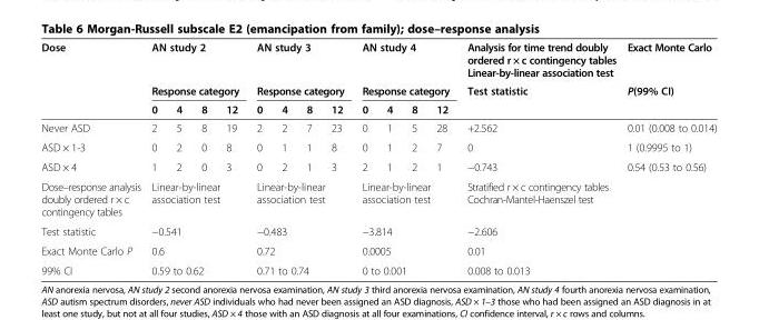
<table><thead><tr><td rowspan="3">Dose</td><td rowspan="2" colspan="4">AN study 2 Response category</td><td rowspan="2" colspan="4">AN study 3 Response category</td><td rowspan="2" colspan="4">AN study 4 Response category</td><td rowspan="3">Analysis for time trend doubly ordered r × c contingency tables Linear-by-linear association test Test statistic</td><td rowspan="3">Exact Monte Carlo P(99% CI)</td></tr><tr></tr><tr><td>0</td><td>4</td><td>8</td><td>12</td><td>0</td><td>4</td><td>8</td><td>12</td><td>0</td><td>4</td><td>8</td><td>12</td></tr></thead><tbody><tr><td>Never ASD</td><td>2</td><td>5</td><td>8</td><td>19</td><td>2</td><td>2</td><td>7</td><td>23</td><td>0</td><td>1</td><td>5</td><td>28</td><td>+2.562</td><td>0.01 (0.008 to 0.014)</td></tr><tr><td>ASD × 1-3</td><td>0</td><td>2</td><td>0</td><td>8</td><td>0</td><td>1</td><td>1</td><td>8</td><td>0</td><td>1</td><td>2</td><td>7</td><td>0</td><td>1 (0.9995 to 1)</td></tr><tr><td>ASD × 4</td><td>1</td><td>2</td><td>0</td><td>3</td><td>0</td><td>2</td><td>1</td><td>3</td><td>2</td><td>1</td><td>2</td><td>1</td><td>−0.743</td><td>0.54 (0.53 to 0.56)</td></tr><tr><td>Dose–response analysis doubly ordered r × c contingency tables</td><td colspan="4">Linear-by-linear association test</td><td colspan="4">Linear-by-linear association test</td><td colspan="4">Linear-by-linear association test</td><td>Stratified r × c contingency tables Cochran-Mantel-Haenszel test</td><td></td></tr><tr><td>Test statistic</td><td colspan="4">−0.541</td><td colspan="4">−0.483</td><td colspan="4">−3.814</td><td>−2.606</td><td></td></tr><tr><td>Exact Monte Carlo P</td><td colspan="4">0.6</td><td colspan="4">0.72</td><td colspan="4">0.0005</td><td>0.01</td><td></td></tr><tr><td>99% CI</td><td colspan="4">0.59 to 0.62</td><td colspan="4">0.71 to 0.74</td><td colspan="4">0 to 0.001</td><td>0.008 to 0.013</td><td></td></tr></tbody></table>